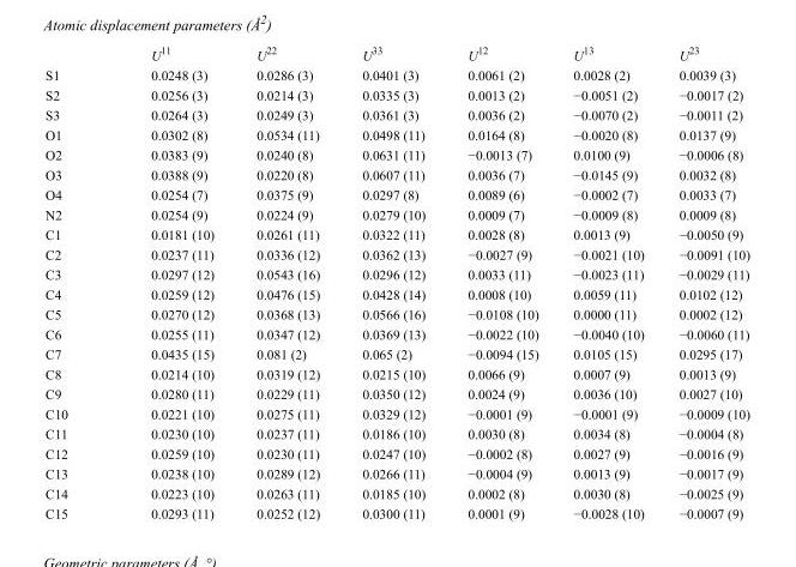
<table><thead><tr><td></td><td>U<sup>11</sup></td><td>U<sup>22</sup></td><td>U<sup>33</sup></td><td>U<sup>12</sup></td><td>U<sup>13</sup></td><td>U<sup>23</sup></td></tr></thead><tbody><tr><td>S1</td><td>0.0248 (3)</td><td>0.0286 (3)</td><td>0.0401 (3)</td><td>0.0061 (2)</td><td>0.0028 (2)</td><td>0.0039 (3)</td></tr><tr><td>S2</td><td>0.0256 (3)</td><td>0.0214 (3)</td><td>0.0335 (3)</td><td>0.0013 (2)</td><td>−0.0051 (2)</td><td>−0.0017 (2)</td></tr><tr><td>S3</td><td>0.0264 (3)</td><td>0.0249 (3)</td><td>0.0361 (3)</td><td>0.0036 (2)</td><td>−0.0070 (2)</td><td>−0.0011 (2)</td></tr><tr><td>O1</td><td>0.0302 (8)</td><td>0.0534 (11)</td><td>0.0498 (11)</td><td>0.0164 (8)</td><td>−0.0020 (8)</td><td>0.0137 (9)</td></tr><tr><td>O2</td><td>0.0383 (9)</td><td>0.0240 (8)</td><td>0.0631 (11)</td><td>−0.0013 (7)</td><td>0.0100 (9)</td><td>−0.0006 (8)</td></tr><tr><td>O3</td><td>0.0388 (9)</td><td>0.0220 (8)</td><td>0.0607 (11)</td><td>0.0036 (7)</td><td>−0.0145 (9)</td><td>0.0032 (8)</td></tr><tr><td>O4</td><td>0.0254 (7)</td><td>0.0375 (9)</td><td>0.0297 (8)</td><td>0.0089 (6)</td><td>−0.0002 (7)</td><td>0.0033 (7)</td></tr><tr><td>N2</td><td>0.0254 (9)</td><td>0.0224 (9)</td><td>0.0279 (10)</td><td>0.0009 (7)</td><td>−0.0009 (8)</td><td>0.0009 (8)</td></tr><tr><td>C1</td><td>0.0181 (10)</td><td>0.0261 (11)</td><td>0.0322 (11)</td><td>0.0028 (8)</td><td>0.0013 (9)</td><td>−0.0050 (9)</td></tr><tr><td>C2</td><td>0.0237 (11)</td><td>0.0336 (12)</td><td>0.0362 (13)</td><td>−0.0027 (9)</td><td>−0.0021 (10)</td><td>−0.0091 (10)</td></tr><tr><td>C3</td><td>0.0297 (12)</td><td>0.0543 (16)</td><td>0.0296 (12)</td><td>0.0033 (11)</td><td>−0.0023 (11)</td><td>−0.0029 (11)</td></tr><tr><td>C4</td><td>0.0259 (12)</td><td>0.0476 (15)</td><td>0.0428 (14)</td><td>0.0008 (10)</td><td>0.0059 (11)</td><td>0.0102 (12)</td></tr><tr><td>C5</td><td>0.0270 (12)</td><td>0.0368 (13)</td><td>0.0566 (16)</td><td>−0.0108 (10)</td><td>0.0000 (11)</td><td>0.0002 (12)</td></tr><tr><td>C6</td><td>0.0255 (11)</td><td>0.0347 (12)</td><td>0.0369 (13)</td><td>−0.0022 (10)</td><td>−0.0040 (10)</td><td>−0.0060 (11)</td></tr><tr><td>C7</td><td>0.0435 (15)</td><td>0.081 (2)</td><td>0.065 (2)</td><td>−0.0094 (15)</td><td>0.0105 (15)</td><td>0.0295 (17)</td></tr><tr><td>C8</td><td>0.0214 (10)</td><td>0.0319 (12)</td><td>0.0215 (10)</td><td>0.0066 (9)</td><td>0.0007 (9)</td><td>0.0013 (9)</td></tr><tr><td>C9</td><td>0.0280 (11)</td><td>0.0229 (11)</td><td>0.0350 (12)</td><td>0.0024 (9)</td><td>0.0036 (10)</td><td>0.0027 (10)</td></tr><tr><td>C10</td><td>0.0221 (10)</td><td>0.0275 (11)</td><td>0.0329 (12)</td><td>−0.0001 (9)</td><td>−0.0001 (9)</td><td>−0.0009 (10)</td></tr><tr><td>C11</td><td>0.0230 (10)</td><td>0.0237 (11)</td><td>0.0186 (10)</td><td>0.0030 (8)</td><td>0.0034 (8)</td><td>−0.0004 (8)</td></tr><tr><td>C12</td><td>0.0259 (10)</td><td>0.0230 (11)</td><td>0.0247 (10)</td><td>−0.0002 (8)</td><td>0.0027 (9)</td><td>−0.0016 (9)</td></tr><tr><td>C13</td><td>0.0238 (10)</td><td>0.0289 (12)</td><td>0.0266 (11)</td><td>−0.0004 (9)</td><td>0.0013 (9)</td><td>−0.0017 (9)</td></tr><tr><td>C14</td><td>0.0223 (10)</td><td>0.0263 (11)</td><td>0.0185 (10)</td><td>0.0002 (8)</td><td>0.0030 (8)</td><td>−0.0025 (9)</td></tr><tr><td>C15</td><td>0.0293 (11)</td><td>0.0252 (12)</td><td>0.0300 (11)</td><td>0.0001 (9)</td><td>−0.0028 (10)</td><td>−0.0007 (9)</td></tr></tbody></table>